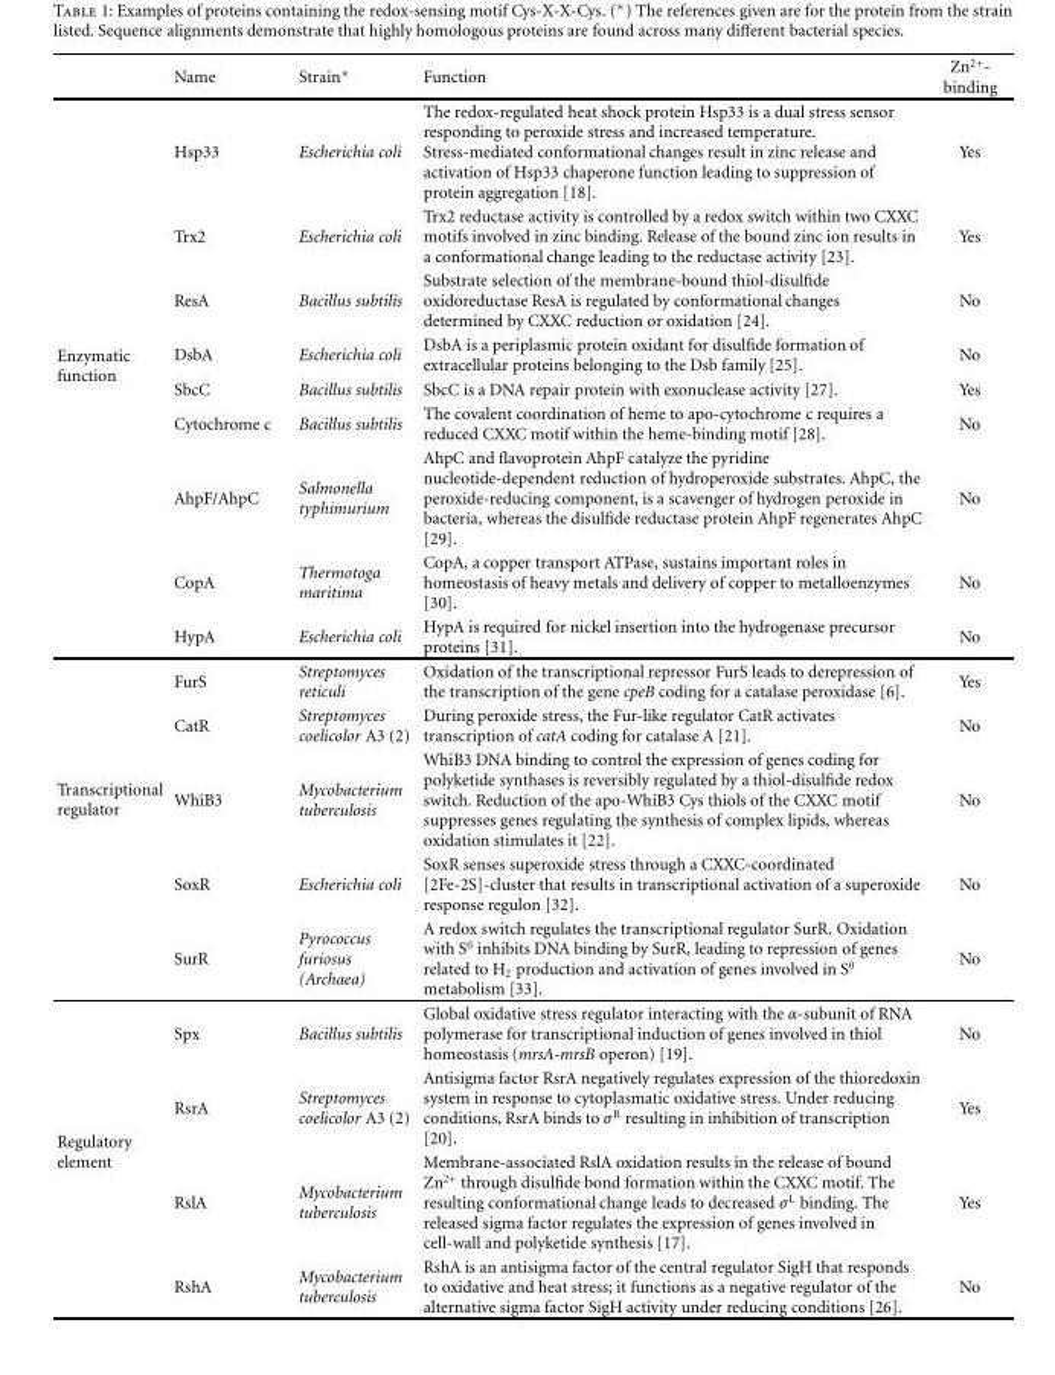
<table><thead><tr><td></td><td>Name</td><td>Strain∗</td><td>Function</td><td>Zn<sup>2+</sup>- binding</td></tr></thead><tbody><tr><td rowspan="9">Enzymatic function</td><td>Hsp33</td><td>Escherichia coli</td><td>The redox-regulated heat shock protein Hsp33 is a dual stress sensor responding to peroxide stress and increased temperature. Stress-mediated conformational changes result in zinc release and activation of Hsp33 chaperone function leading to suppression of protein aggregation [18].</td><td>Yes</td></tr><tr><td>Trx2</td><td>Escherichia coli</td><td>Trx2 reductase activity is controlled by a redox switch within two CXXC motifs involved in zinc binding. Release of the bound zinc ion results in a conformational change leading to the reductase activity [23].</td><td>Yes</td></tr><tr><td>ResA</td><td>Bacillus subtilis</td><td>Substrate selection of the membrane-bound thiol-disulfide oxidoreductase ResA is regulated by conformational changes determined by CXXC reduction or oxidation [24].</td><td>No</td></tr><tr><td>DsbA</td><td>Escherichia coli</td><td>DsbA is a periplasmic protein oxidant for disulfide formation of extracellular proteins belonging to the Dsb family [25].</td><td>No</td></tr><tr><td>SbcC</td><td>Bacillus subtilis</td><td>SbcC is a DNA repair protein with exonuclease activity [27].</td><td>Yes</td></tr><tr><td>Cytochrome c</td><td>Bacillus subtilis</td><td>The covalent coordination of heme to apo-cytochrome c requires a reduced CXXC motif within the heme-binding motif [28].</td><td>No</td></tr><tr><td>AhpF/AhpC</td><td>Salmonella typhimurium</td><td>AhpC and flavoprotein AhpF catalyze the pyridine nucleotide-dependent reduction of hydroperoxide substrates. AhpC, the peroxide-reducing component, is a scavenger of hydrogen peroxide in bacteria, whereas the disulfide reductase protein AhpF regenerates AhpC [29].</td><td>No</td></tr><tr><td>CopA</td><td>Thermotoga maritima</td><td>CopA, a copper transport ATPase, sustains important roles in homeostasis of heavy metals and delivery of copper to metalloenzymes [30].</td><td>No</td></tr><tr><td>HypA</td><td>Escherichia coli</td><td>HypA is required for nickel insertion into the hydrogenase precursor proteins [31].</td><td>No</td></tr><tr><td rowspan="5">Transcriptional regulator</td><td>FurS</td><td>Streptomyces reticuli</td><td>Oxidation of the transcriptional repressor FurS leads to derepression of the transcription of the gene cpeB coding for a catalase peroxidase [6].</td><td>Yes</td></tr><tr><td>CatR</td><td>Streptomyces coelicolor A3 (2)</td><td>During peroxide stress, the Fur-like regulator CatR activates transcription of catA coding for catalase A [21].</td><td>No</td></tr><tr><td>WhiB3</td><td>Mycobacterium tuberculosis</td><td>WhiB3 DNA binding to control the expression of genes coding for polyketide synthases is reversibly regulated by a thiol-disulfide redox switch. Reduction of the apo-WhiB3 Cys thiols of the CXXC motif suppresses genes regulating the synthesis of complex lipids, whereas oxidation stimulates it [22].</td><td>No</td></tr><tr><td>SoxR</td><td>Escherichia coli</td><td>SoxR senses superoxide stress through a CXXC-coordinated [2Fe-2S]-cluster that results in transcriptional activation of a superoxide response regulon [32].</td><td>No</td></tr><tr><td>SurR</td><td>Pyrococcus furiosus (Archaea)</td><td>A redox switch regulates the transcriptional regulator SurR. Oxidation with S<sup>0</sup> inhibits DNA binding by SurR, leading to repression of genes related to H<sub>2</sub> production and activation of genes involved in S<sup>0</sup> metabolism [33].</td><td>No</td></tr><tr><td rowspan="4">Regulatory element</td><td>Spx</td><td>Bacillus subtilis</td><td>Global oxidative stress regulator interacting with the α-subunit of RNA polymerase for transcriptional induction of genes involved in thiol homeostasis (mrsA-mrsB operon) [19].</td><td>No</td></tr><tr><td>RsrA</td><td>Streptomyces coelicolor A3 (2)</td><td>Antisigma factor RsrA negatively regulates expression of the thioredoxin system in response to cytoplasmatic oxidative stress. Under reducing conditions, RsrA binds to σ<sup>R</sup> resulting in inhibition of transcription [20].</td><td>Yes</td></tr><tr><td>RslA</td><td>Mycobacterium tuberculosis</td><td>Membrane-associated RslA oxidation results in the release of bound Zn<sup>2+</sup> through disulfide bond formation within the CXXC motif. The resulting conformational change leads to decreased σ<sup>L</sup> binding. The released sigma factor regulates the expression of genes involved in cell-wall and polyketide synthesis [17].</td><td>Yes</td></tr><tr><td>RshA</td><td>Mycobacterium tuberculosis</td><td>RshA is an antisigma factor of the central regulator SigH that responds to oxidative and heat stress; it functions as a negative regulator of the alternative sigma factor SigH activity under reducing conditions [26].</td><td>No</td></tr></tbody></table>